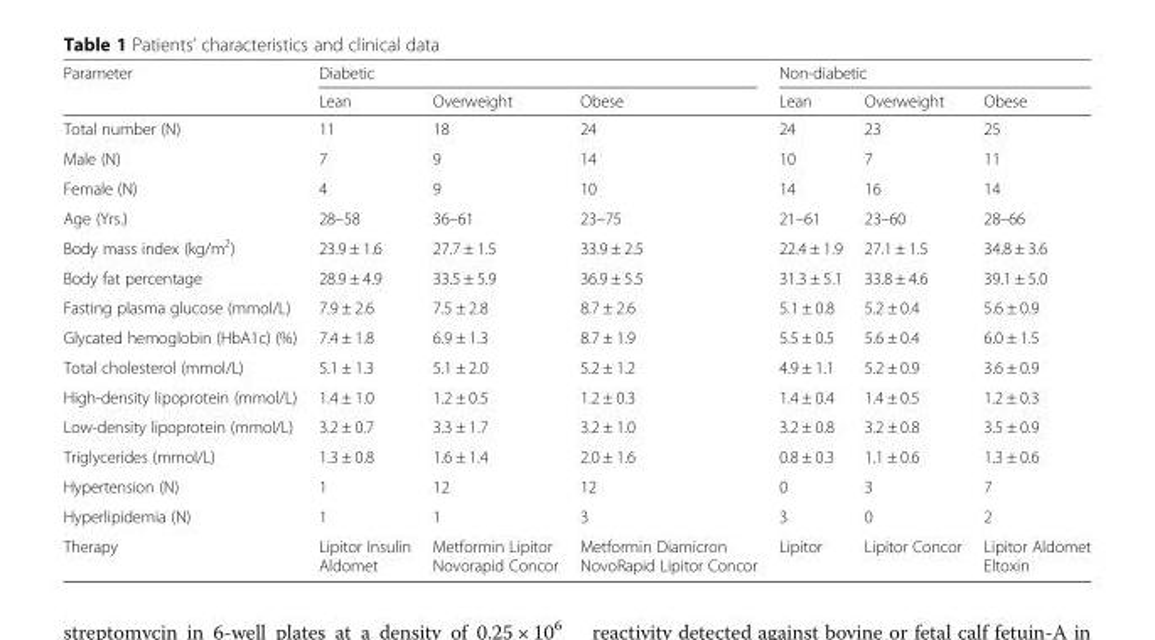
<table><thead><tr><td rowspan="2">Parameter</td><td colspan="3">Diabetic</td><td colspan="3">Non-diabetic</td></tr><tr><td>Lean</td><td>Overweight</td><td>Obese</td><td>Lean</td><td>Overweight</td><td>Obese</td></tr></thead><tbody><tr><td>Total number (N)</td><td>11</td><td>18</td><td>24</td><td>24</td><td>23</td><td>25</td></tr><tr><td>Male (N)</td><td>7</td><td>9</td><td>14</td><td>10</td><td>7</td><td>11</td></tr><tr><td>Female (N)</td><td>4</td><td>9</td><td>10</td><td>14</td><td>16</td><td>14</td></tr><tr><td>Age (Yrs.)</td><td>28–58</td><td>36–61</td><td>23–75</td><td>21–61</td><td>23–60</td><td>28–66</td></tr><tr><td>Body mass index (kg/m<sup>2</sup>)</td><td>23.9 ± 1.6</td><td>27.7 ± 1.5</td><td>33.9 ± 2.5</td><td>22.4 ± 1.9</td><td>27.1 ± 1.5</td><td>34.8 ± 3.6</td></tr><tr><td>Body fat percentage</td><td>28.9 ± 4.9</td><td>33.5 ± 5.9</td><td>36.9 ± 5.5</td><td>31.3 ± 5.1</td><td>33.8 ± 4.6</td><td>39.1 ± 5.0</td></tr><tr><td>Fasting plasma glucose (mmol/L)</td><td>7.9 ± 2.6</td><td>7.5 ± 2.8</td><td>8.7 ± 2.6</td><td>5.1 ± 0.8</td><td>5.2 ± 0.4</td><td>5.6 ± 0.9</td></tr><tr><td>Glycated hemoglobin (HbA1c) (%)</td><td>7.4 ± 1.8</td><td>6.9 ± 1.3</td><td>8.7 ± 1.9</td><td>5.5 ± 0.5</td><td>5.6 ± 0.4</td><td>6.0 ± 1.5</td></tr><tr><td>Total cholesterol (mmol/L)</td><td>5.1 ± 1.3</td><td>5.1 ± 2.0</td><td>5.2 ± 1.2</td><td>4.9 ± 1.1</td><td>5.2 ± 0.9</td><td>3.6 ± 0.9</td></tr><tr><td>High-density lipoprotein (mmol/L)</td><td>1.4 ± 1.0</td><td>1.2 ± 0.5</td><td>1.2 ± 0.3</td><td>1.4 ± 0.4</td><td>1.4 ± 0.5</td><td>1.2 ± 0.3</td></tr><tr><td>Low-density lipoprotein (mmol/L)</td><td>3.2 ± 0.7</td><td>3.3 ± 1.7</td><td>3.2 ± 1.0</td><td>3.2 ± 0.8</td><td>3.2 ± 0.8</td><td>3.5 ± 0.9</td></tr><tr><td>Triglycerides (mmol/L)</td><td>1.3 ± 0.8</td><td>1.6 ± 1.4</td><td>2.0 ± 1.6</td><td>0.8 ± 0.3</td><td>1.1 ± 0.6</td><td>1.3 ± 0.6</td></tr><tr><td>Hypertension (N)</td><td>1</td><td>12</td><td>12</td><td>0</td><td>3</td><td>7</td></tr><tr><td>Hyperlipidemia (N)</td><td>1</td><td>1</td><td>3</td><td>3</td><td>0</td><td>2</td></tr><tr><td>Therapy</td><td>Lipitor Insulin Aldomet</td><td>Metformin Lipitor Novorapid Concor</td><td>Metformin Diamicron NovoRapid Lipitor Concor</td><td>Lipitor</td><td>Lipitor Concor</td><td>Lipitor Aldomet Eltoxin</td></tr></tbody></table>